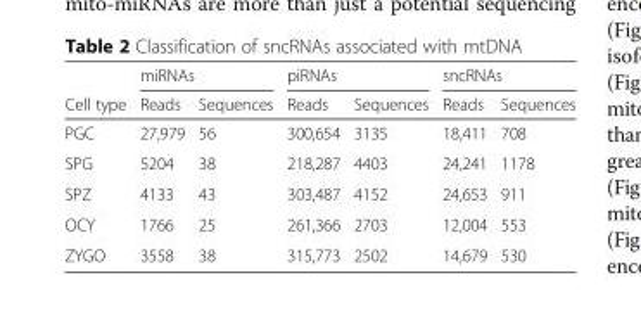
<table><thead><tr><td rowspan="2">Cell type</td><td colspan="2">miRNAs</td><td colspan="2">piRNAs</td><td colspan="2">sncRNAs</td></tr><tr><td>Reads</td><td>Sequences</td><td>Reads</td><td>Sequences</td><td>Reads</td><td>Sequences</td></tr></thead><tbody><tr><td>PGC</td><td>27,979</td><td>56</td><td>300,654</td><td>3135</td><td>18,411</td><td>708</td></tr><tr><td>SPG</td><td>5204</td><td>38</td><td>218,287</td><td>4403</td><td>24,241</td><td>1178</td></tr><tr><td>SPZ</td><td>4133</td><td>43</td><td>303,487</td><td>4152</td><td>24,653</td><td>911</td></tr><tr><td>OCY</td><td>1766</td><td>25</td><td>261,366</td><td>2703</td><td>12,004</td><td>553</td></tr><tr><td>ZYGO</td><td>3558</td><td>38</td><td>315,773</td><td>2502</td><td>14,679</td><td>530</td></tr></tbody></table>